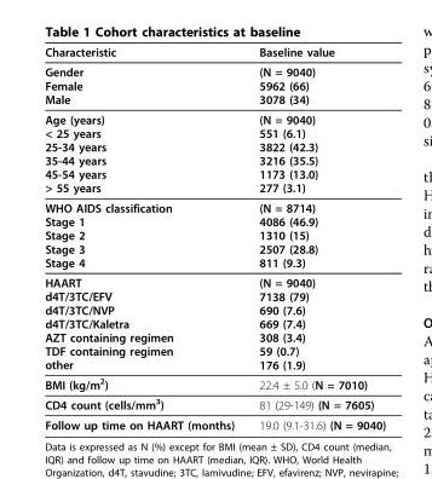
<table><thead><tr><td>Characteristic</td><td>Baseline value</td></tr></thead><tbody><tr><td>Gender Female Male</td><td>(N = 9040) 5962 (66) 3078 (34)</td></tr><tr><td>Age (years) &lt; 25 years 25-34 years 35-44 years 45-54 years &gt; 55 years</td><td>(N = 9040) 551 (6.1) 3822 (42.3) 3216 (35.5) 1173 (13.0) 277 (3.1)</td></tr><tr><td>WHO AIDS classification Stage 1 Stage 2 Stage 3 Stage 4</td><td>(N = 8714) 4086 (46.9) 1310 (15) 2507 (28.8) 811 (9.3)</td></tr><tr><td>HAART d4T/3TC/EFV d4T/3TC/NVP d4T/3TC/Kaletra AZT containing regimen TDF containing regimen other</td><td>(N = 9040) 7138 (79) 690 (7.6) 669 (7.4) 308 (3.4) 59 (0.7) 176 (1.9)</td></tr><tr><td>BMI (kg/m<sup>2</sup>)</td><td>22.4 ± 5.0 (N = 7010)</td></tr><tr><td>CD4 count (cells/mm<sup>3</sup>)</td><td>81 (29-149) (N = 7605)</td></tr><tr><td>Follow up time on HAART (months)</td><td>19.0 (9.1-31.6) (N = 9040)</td></tr></tbody></table>